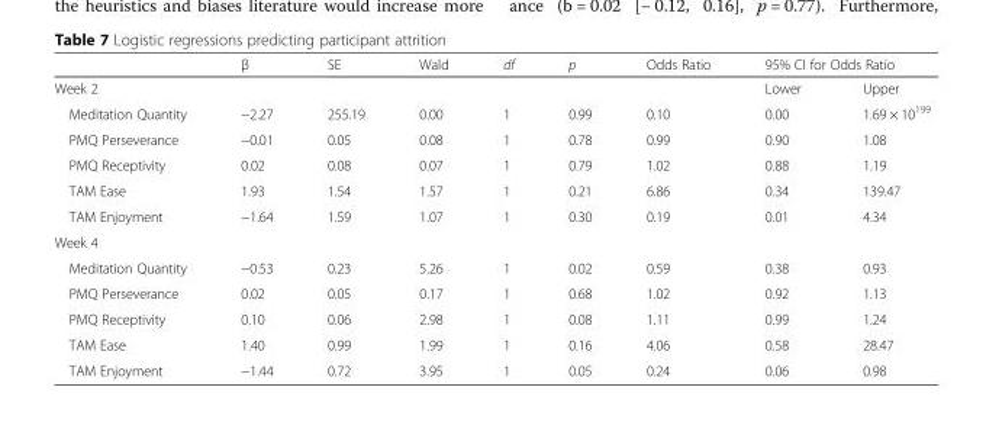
<table><thead><tr><td rowspan="2">Week 2</td><td rowspan="2">β</td><td rowspan="2">SE</td><td rowspan="2">Wald</td><td rowspan="2">df</td><td rowspan="2">p</td><td rowspan="2">Odds Ratio</td><td colspan="2">95% CI for Odds Ratio</td></tr><tr><td>Lower</td><td>Upper</td></tr></thead><tbody><tr><td>Meditation Quantity</td><td>−2.27</td><td>255.19</td><td>0.00</td><td>1</td><td>0.99</td><td>0.10</td><td>0.00</td><td>1.69 × 10<sup>199</sup></td></tr><tr><td>PMQ Perseverance</td><td>−0.01</td><td>0.05</td><td>0.08</td><td>1</td><td>0.78</td><td>0.99</td><td>0.90</td><td>1.08</td></tr><tr><td>PMQ Receptivity</td><td>0.02</td><td>0.08</td><td>0.07</td><td>1</td><td>0.79</td><td>1.02</td><td>0.88</td><td>1.19</td></tr><tr><td>TAM Ease</td><td>1.93</td><td>1.54</td><td>1.57</td><td>1</td><td>0.21</td><td>6.86</td><td>0.34</td><td>139.47</td></tr><tr><td>TAM Enjoyment</td><td>−1.64</td><td>1.59</td><td>1.07</td><td>1</td><td>0.30</td><td>0.19</td><td>0.01</td><td>4.34</td></tr><tr><td colspan="9">Week 4</td></tr><tr><td>Meditation Quantity</td><td>−0.53</td><td>0.23</td><td>5.26</td><td>1</td><td>0.02</td><td>0.59</td><td>0.38</td><td>0.93</td></tr><tr><td>PMQ Perseverance</td><td>0.02</td><td>0.05</td><td>0.17</td><td>1</td><td>0.68</td><td>1.02</td><td>0.92</td><td>1.13</td></tr><tr><td>PMQ Receptivity</td><td>0.10</td><td>0.06</td><td>2.98</td><td>1</td><td>0.08</td><td>1.11</td><td>0.99</td><td>1.24</td></tr><tr><td>TAM Ease</td><td>1.40</td><td>0.99</td><td>1.99</td><td>1</td><td>0.16</td><td>4.06</td><td>0.58</td><td>28.47</td></tr><tr><td>TAM Enjoyment</td><td>−1.44</td><td>0.72</td><td>3.95</td><td>1</td><td>0.05</td><td>0.24</td><td>0.06</td><td>0.98</td></tr></tbody></table>